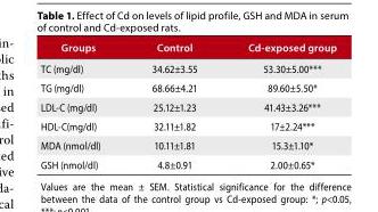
<table><thead><tr><td>Groups</td><td>Control</td><td>Cd-exposed group</td></tr></thead><tbody><tr><td>TC (mg/dl)</td><td>34.62±3.55</td><td>53.30±5.00***</td></tr><tr><td>TG (mg/dl)</td><td>68.66±4.21</td><td>89.60±5.50*</td></tr><tr><td>LDL-C (mg/dl)</td><td>25.12±1.23</td><td>41.43±3.26***</td></tr><tr><td>HDL-C(mg/dl)</td><td>32.11±1.82</td><td>17±2.24***</td></tr><tr><td>MDA (nmol/dl)</td><td>10.11±1.81</td><td>15.3±1.10*</td></tr><tr><td>GSH (nmol/dl)</td><td>4.8±0.91</td><td>2.00±0.65*</td></tr></tbody></table>